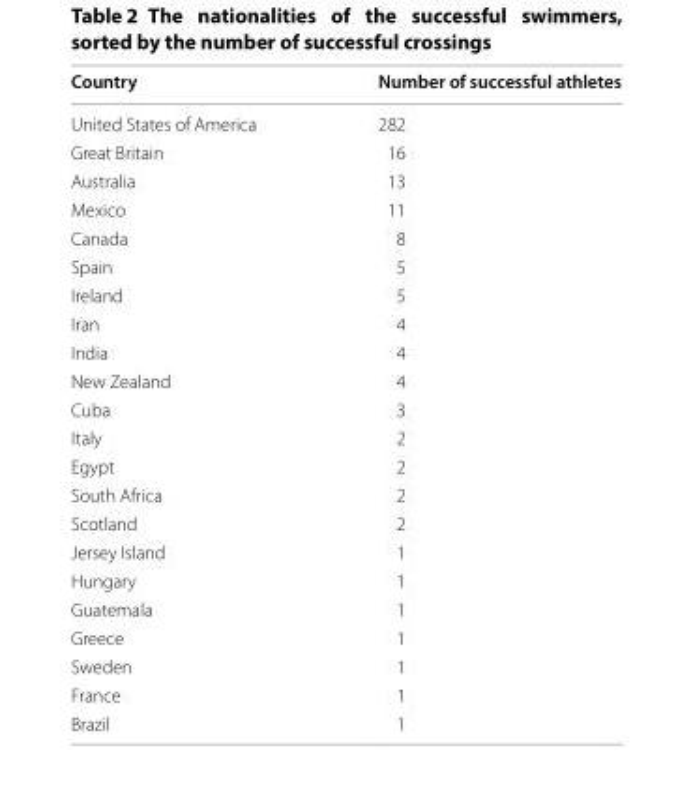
<table><thead><tr><td>Country</td><td>Number of successful athletes</td></tr></thead><tbody><tr><td>United States of America</td><td>282</td></tr><tr><td>Great Britain</td><td>16</td></tr><tr><td>Australia</td><td>13</td></tr><tr><td>Mexico</td><td>11</td></tr><tr><td>Canada</td><td>8</td></tr><tr><td>Spain</td><td>5</td></tr><tr><td>Ireland</td><td>5</td></tr><tr><td>Iran</td><td>4</td></tr><tr><td>India</td><td>4</td></tr><tr><td>New Zealand</td><td>4</td></tr><tr><td>Cuba</td><td>3</td></tr><tr><td>Italy</td><td>2</td></tr><tr><td>Egypt</td><td>2</td></tr><tr><td>South Africa</td><td>2</td></tr><tr><td>Scotland</td><td>2</td></tr><tr><td>Jersey Island</td><td>1</td></tr><tr><td>Hungary</td><td>1</td></tr><tr><td>Guatemala</td><td>1</td></tr><tr><td>Greece</td><td>1</td></tr><tr><td>Sweden</td><td>1</td></tr><tr><td>France</td><td>1</td></tr><tr><td>Brazil</td><td>1</td></tr></tbody></table>